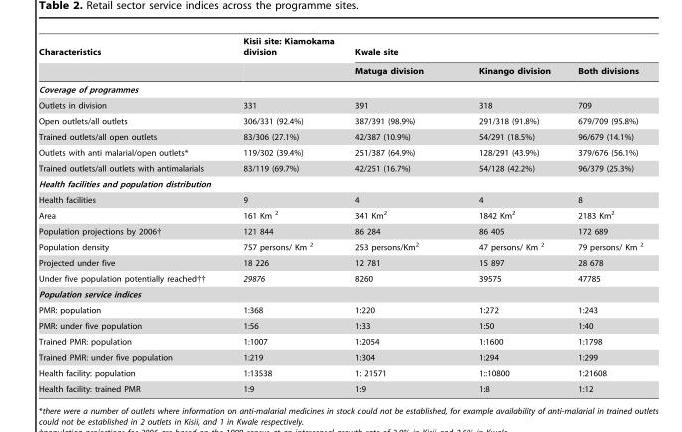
<table><thead><tr><td rowspan="2">Characteristics</td><td rowspan="2">Kisii site: Kiamokama division</td><td colspan="3">Kwale site</td></tr><tr><td>Matuga division</td><td>Kinango division</td><td>Both divisions</td></tr></thead><tbody><tr><td colspan="5">Coverage of programmes</td></tr><tr><td>Outlets in division</td><td>331</td><td>391</td><td>318</td><td>709</td></tr><tr><td>Open outlets/all outlets</td><td>306/331 (92.4%)</td><td>387/391 (98.9%)</td><td>291/318 (91.8%)</td><td>679/709 (95.8%)</td></tr><tr><td>Trained outlets/all open outlets</td><td>83/306 (27.1%)</td><td>42/387 (10.9%)</td><td>54/291 (18.5%)</td><td>96/679 (14.1%)</td></tr><tr><td>Outlets with anti malarial/open outlets*</td><td>119/302 (39.4%)</td><td>251/387 (64.9%)</td><td>128/291 (43.9%)</td><td>379/676 (56.1%)</td></tr><tr><td>Trained outlets/all outlets with antimalarials</td><td>83/119 (69.7%)</td><td>42/251 (16.7%)</td><td>54/128 (42.2%)</td><td>96/379 (25.3%)</td></tr><tr><td colspan="5">Health facilities and population distribution</td></tr><tr><td>Health facilities</td><td>9</td><td>4</td><td>4</td><td>8</td></tr><tr><td>Area</td><td>161 Km <sup>2</sup></td><td>341 Km<sup>2</sup></td><td>1842 Km<sup>2</sup></td><td>2183 Km<sup>2</sup></td></tr><tr><td>Population projections by 2006†</td><td>121 844</td><td>86 284</td><td>86 405</td><td>172 689</td></tr><tr><td>Population density</td><td>757 persons/ Km <sup>2</sup></td><td>253 persons/Km<sup>2</sup></td><td>47 persons/ Km <sup>2</sup></td><td>79 persons/ Km <sup>2</sup></td></tr><tr><td>Projected under five</td><td>18 226</td><td>12 781</td><td>15 897</td><td>28 678</td></tr><tr><td>Under five population potentially reached††</td><td>29876</td><td>8260</td><td>39575</td><td>47785</td></tr><tr><td colspan="5">Population service indices</td></tr><tr><td>PMR: population</td><td>1:368</td><td>1:220</td><td>1:272</td><td>1:243</td></tr><tr><td>PMR: under five population</td><td>1:56</td><td>1:33</td><td>1:50</td><td>1:40</td></tr><tr><td>Trained PMR: population</td><td>1:1007</td><td>1:2054</td><td>1:1600</td><td>1:1798</td></tr><tr><td>Trained PMR: under five population</td><td>1:219</td><td>1:304</td><td>1:294</td><td>1:299</td></tr><tr><td>Health facility: population</td><td>1:13538</td><td>1: 21571</td><td>1::10800</td><td>1:21608</td></tr><tr><td>Health facility: trained PMR</td><td>1:9</td><td>1:9</td><td>1:8</td><td>1:12</td></tr></tbody></table>